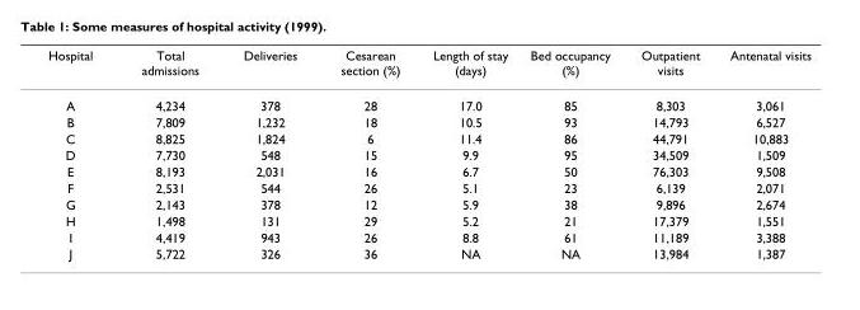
<table><thead><tr><td>Hospital</td><td>Total admissions</td><td>Deliveries</td><td>Cesarean section (%)</td><td>Length of stay (days)</td><td>Bed occupancy (%)</td><td>Outpatient visits</td><td>Antenatal visits</td></tr></thead><tbody><tr><td>A</td><td>4,234</td><td>378</td><td>28</td><td>17.0</td><td>85</td><td>8,303</td><td>3,061</td></tr><tr><td>B</td><td>7,809</td><td>1,232</td><td>18</td><td>10.5</td><td>93</td><td>14,793</td><td>6,527</td></tr><tr><td>C</td><td>8,825</td><td>1,824</td><td>6</td><td>11.4</td><td>86</td><td>44,791</td><td>10,883</td></tr><tr><td>D</td><td>7,730</td><td>548</td><td>15</td><td>9.9</td><td>95</td><td>34,509</td><td>1,509</td></tr><tr><td>E</td><td>8,193</td><td>2,031</td><td>16</td><td>6.7</td><td>50</td><td>76,303</td><td>9,508</td></tr><tr><td>F</td><td>2,531</td><td>544</td><td>26</td><td>5.1</td><td>23</td><td>6,139</td><td>2,071</td></tr><tr><td>G</td><td>2,143</td><td>378</td><td>12</td><td>5.9</td><td>38</td><td>9,896</td><td>2,674</td></tr><tr><td>H</td><td>1,498</td><td>131</td><td>29</td><td>5.2</td><td>21</td><td>17,379</td><td>1,551</td></tr><tr><td>I</td><td>4,419</td><td>943</td><td>26</td><td>8.8</td><td>61</td><td>11,189</td><td>3,388</td></tr><tr><td>J</td><td>5,722</td><td>326</td><td>36</td><td>NA</td><td>NA</td><td>13,984</td><td>1,387</td></tr></tbody></table>